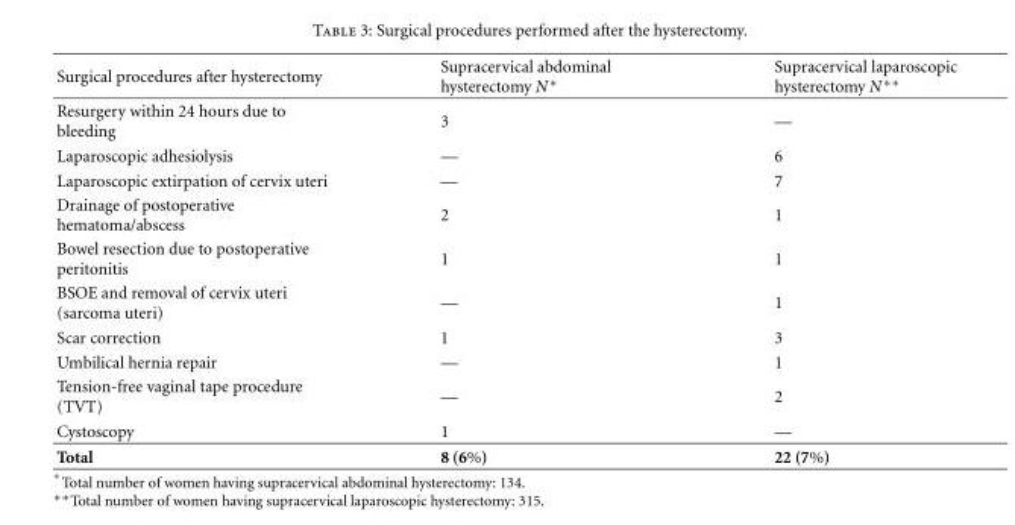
<table><thead><tr><td>Surgical procedures after hysterectomy</td><td>Supracervical abdominal hysterectomy N ∗</td><td>Supracervical laparoscopic hysterectomy N ∗∗</td></tr></thead><tbody><tr><td>Resurgery within 24 hours due to bleeding</td><td>3</td><td>—</td></tr><tr><td>Laparoscopic adhesiolysis</td><td>—</td><td>6</td></tr><tr><td>Laparoscopic extirpation of cervix uteri</td><td>—</td><td>7</td></tr><tr><td>Drainage of postoperative hematoma/abscess</td><td>2</td><td>1</td></tr><tr><td>Bowel resection due to postoperative peritonitis</td><td>1</td><td>1</td></tr><tr><td>BSOE and removal of cervix uteri (sarcoma uteri)</td><td>—</td><td>1</td></tr><tr><td>Scar correction</td><td>1</td><td>3</td></tr><tr><td>Umbilical hernia repair</td><td>—</td><td>1</td></tr><tr><td>Tension-free vaginal tape procedure (TVT)</td><td>—</td><td>2</td></tr><tr><td>Cystoscopy</td><td>1</td><td>—</td></tr><tr><td>Total</td><td>8 (6%)</td><td>22 (7%)</td></tr></tbody></table>